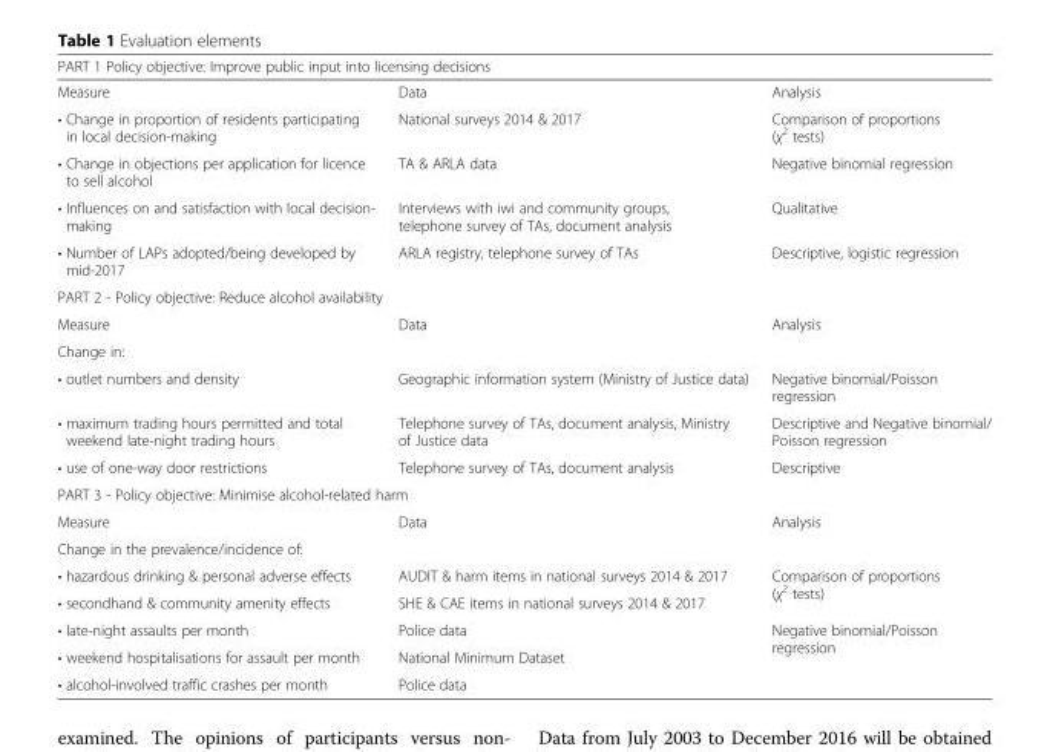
<table><thead><tr><td colspan="3">PART 1 Policy objective: Improve public input into licensing decisions</td></tr><tr><td>Measure</td><td>Data</td><td>Analysis</td></tr></thead><tbody><tr><td>• Change in proportion of residents participating in local decision-making</td><td>National surveys 2014 &amp; 2017</td><td>Comparison of proportions (χ<sup>2</sup> tests)</td></tr><tr><td>• Change in objections per application for licence to sell alcohol</td><td>TA &amp; ARLA data</td><td>Negative binomial regression</td></tr><tr><td>• Influences on and satisfaction with local decision- making</td><td>Interviews with iwi and community groups, telephone survey of TAs, document analysis</td><td>Qualitative</td></tr><tr><td>• Number of LAPs adopted/being developed by mid-2017</td><td>ARLA registry, telephone survey of TAs</td><td>Descriptive, logistic regression</td></tr><tr><td colspan="3">PART 2 - Policy objective: Reduce alcohol availability</td></tr><tr><td>Measure</td><td>Data</td><td>Analysis</td></tr><tr><td colspan="3">Change in:</td></tr><tr><td>• outlet numbers and density</td><td>Geographic information system (Ministry of Justice data)</td><td>Negative binomial/Poisson regression</td></tr><tr><td>• maximum trading hours permitted and total weekend late-night trading hours</td><td>Telephone survey of TAs, document analysis, Ministry of Justice data</td><td>Descriptive and Negative binomial/ Poisson regression</td></tr><tr><td>• use of one-way door restrictions</td><td>Telephone survey of TAs, document analysis</td><td>Descriptive</td></tr><tr><td colspan="3">PART 3 - Policy objective: Minimise alcohol-related harm</td></tr><tr><td>Measure</td><td>Data</td><td>Analysis</td></tr><tr><td colspan="3">Change in the prevalence/incidence of:</td></tr><tr><td>• hazardous drinking &amp; personal adverse effects</td><td>AUDIT &amp; harm items in national surveys 2014 &amp; 2017</td><td rowspan="2">Comparison of proportions (χ<sup>2</sup> tests)</td></tr><tr><td>• secondhand &amp; community amenity effects</td><td>SHE &amp; CAE items in national surveys 2014 &amp; 2017</td></tr><tr><td>• late-night assaults per month</td><td>Police data</td><td rowspan="3">Negative binomial/Poisson regression</td></tr><tr><td>• weekend hospitalisations for assault per month</td><td>National Minimum Dataset</td></tr><tr><td>• alcohol-involved traffic crashes per month</td><td>Police data</td></tr></tbody></table>